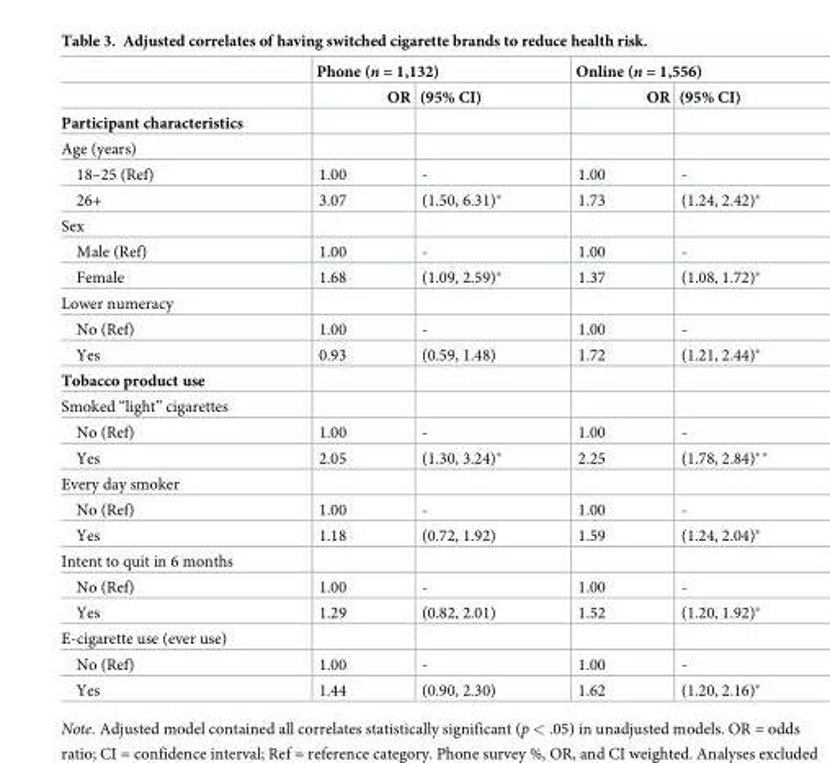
<table><thead><tr><td rowspan="2"></td><td colspan="2">Phone (n = 1,132)</td><td colspan="2">Online (n = 1,556)</td></tr><tr><td>OR</td><td>(95% CI)</td><td>OR</td><td>(95% CI)</td></tr></thead><tbody><tr><td colspan="5">Participant characteristics</td></tr><tr><td colspan="5">Age (years)</td></tr><tr><td>18–25 (Ref)</td><td>1.00</td><td>-</td><td>1.00</td><td>-</td></tr><tr><td>26+</td><td>3.07</td><td>(1.50, 6.31)*</td><td>1.73</td><td>(1.24, 2.42)*</td></tr><tr><td colspan="5">Sex</td></tr><tr><td>Male (Ref)</td><td>1.00</td><td>-</td><td>1.00</td><td>-</td></tr><tr><td>Female</td><td>1.68</td><td>(1.09, 2.59)*</td><td>1.37</td><td>(1.08, 1.72)*</td></tr><tr><td colspan="5">Lower numeracy</td></tr><tr><td>No (Ref)</td><td>1.00</td><td>-</td><td>1.00</td><td>-</td></tr><tr><td>Yes</td><td>0.93</td><td>(0.59, 1.48)</td><td>1.72</td><td>(1.21, 2.44)*</td></tr><tr><td colspan="5">Tobacco product use</td></tr><tr><td colspan="5">Smoked “light” cigarettes</td></tr><tr><td>No (Ref)</td><td>1.00</td><td>-</td><td>1.00</td><td>-</td></tr><tr><td>Yes</td><td>2.05</td><td>(1.30, 3.24)*</td><td>2.25</td><td>(1.78, 2.84)**</td></tr><tr><td colspan="5">Every day smoker</td></tr><tr><td>No (Ref)</td><td>1.00</td><td>-</td><td>1.00</td><td>-</td></tr><tr><td>Yes</td><td>1.18</td><td>(0.72, 1.92)</td><td>1.59</td><td>(1.24, 2.04)*</td></tr><tr><td colspan="5">Intent to quit in 6 months</td></tr><tr><td>No (Ref)</td><td>1.00</td><td>-</td><td>1.00</td><td>-</td></tr><tr><td>Yes</td><td>1.29</td><td>(0.82, 2.01)</td><td>1.52</td><td>(1.20, 1.92)*</td></tr><tr><td colspan="5">E-cigarette use (ever use)</td></tr><tr><td>No (Ref)</td><td>1.00</td><td>-</td><td>1.00</td><td>-</td></tr><tr><td>Yes</td><td>1.44</td><td>(0.90, 2.30)</td><td>1.62</td><td>(1.20, 2.16)*</td></tr></tbody></table>